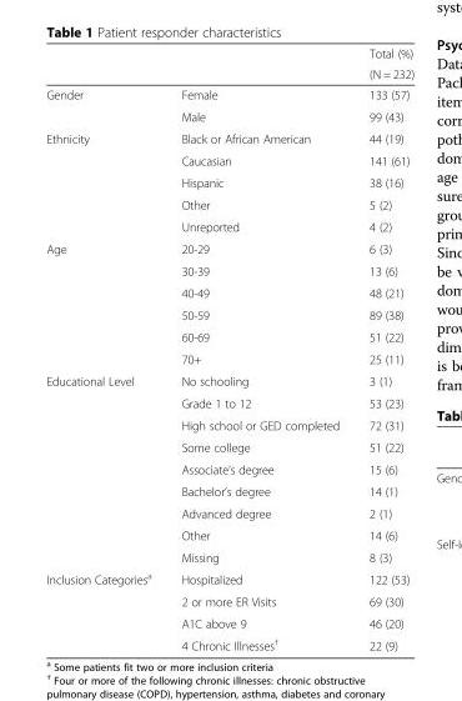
<table><thead><tr><td rowspan="2"></td><td rowspan="2"></td><td rowspan="2">Total (%) (N = 232)</td></tr><tr></tr></thead><tbody><tr><td rowspan="2">Gender</td><td>Female</td><td>133 (57)</td></tr><tr><td>Male</td><td>99 (43)</td></tr><tr><td rowspan="5">Ethnicity</td><td>Black or African American</td><td>44 (19)</td></tr><tr><td>Caucasian</td><td>141 (61)</td></tr><tr><td>Hispanic</td><td>38 (16)</td></tr><tr><td>Other</td><td>5 (2)</td></tr><tr><td>Unreported</td><td>4 (2)</td></tr><tr><td rowspan="6">Age</td><td>20-29</td><td>6 (3)</td></tr><tr><td>30-39</td><td>13 (6)</td></tr><tr><td>40-49</td><td>48 (21)</td></tr><tr><td>50-59</td><td>89 (38)</td></tr><tr><td>60-69</td><td>51 (22)</td></tr><tr><td>70+</td><td>25 (11)</td></tr><tr><td rowspan="9">Educational Level</td><td>No schooling</td><td>3 (1)</td></tr><tr><td>Grade 1 to 12</td><td>53 (23)</td></tr><tr><td>High school or GED completed</td><td>72 (31)</td></tr><tr><td>Some college</td><td>51 (22)</td></tr><tr><td>Associate’s degree</td><td>15 (6)</td></tr><tr><td>Bachelor’s degree</td><td>14 (1)</td></tr><tr><td>Advanced degree</td><td>2 (1)</td></tr><tr><td>Other</td><td>14 (6)</td></tr><tr><td>Missing</td><td>8 (3)</td></tr><tr><td rowspan="4">Inclusion Categories<sup>a</sup></td><td>Hospitalized</td><td>122 (53)</td></tr><tr><td>2 or more ER Visits</td><td>69 (30)</td></tr><tr><td>A1C above 9</td><td>46 (20)</td></tr><tr><td>4 Chronic Illnesses<sup>†</sup></td><td>22 (9)</td></tr></tbody></table>